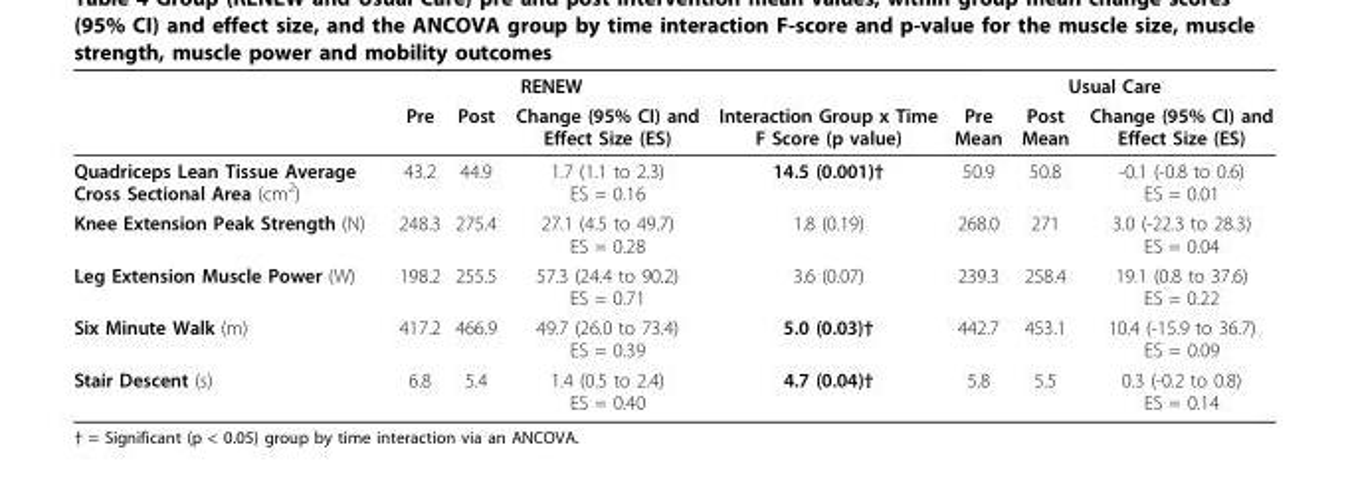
<table><thead><tr><td rowspan="2"></td><td colspan="3">RENEW</td><td rowspan="2">Interaction Group x Time F Score (p value)</td><td colspan="3">Usual Care</td></tr><tr><td>Pre</td><td>Post</td><td>Change (95% CI) and Effect Size (ES)</td><td>Pre Mean</td><td>Post Mean</td><td>Change (95% CI) and Effect Size (ES)</td></tr></thead><tbody><tr><td>Quadriceps Lean Tissue Average Cross Sectional Area (cm<sup>2</sup>)</td><td>43.2</td><td>44.9</td><td>1.7 (1.1 to 2.3) ES = 0.16</td><td>14.5 (0.001)†</td><td>50.9</td><td>50.8</td><td>-0.1 (-0.8 to 0.6) ES = 0.01</td></tr><tr><td>Knee Extension Peak Strength (N)</td><td>248.3</td><td>275.4</td><td>27.1 (4.5 to 49.7) ES = 0.28</td><td>1.8 (0.19)</td><td>268.0</td><td>271</td><td>3.0 (-22.3 to 28.3) ES = 0.04</td></tr><tr><td>Leg Extension Muscle Power (W)</td><td>198.2</td><td>255.5</td><td>57.3 (24.4 to 90.2) ES = 0.71</td><td>3.6 (0.07)</td><td>239.3</td><td>258.4</td><td>19.1 (0.8 to 37.6) ES = 0.22</td></tr><tr><td>Six Minute Walk (m)</td><td>417.2</td><td>466.9</td><td>49.7 (26.0 to 73.4) ES = 0.39</td><td>5.0 (0.03)†</td><td>442.7</td><td>453.1</td><td>10.4 (-15.9 to 36.7) ES = 0.09</td></tr><tr><td>Stair Descent (s)</td><td>6.8</td><td>5.4</td><td>1.4 (0.5 to 2.4) ES = 0.40</td><td>4.7 (0.04)†</td><td>5.8</td><td>5.5</td><td>0.3 (-0.2 to 0.8) ES = 0.14</td></tr></tbody></table>